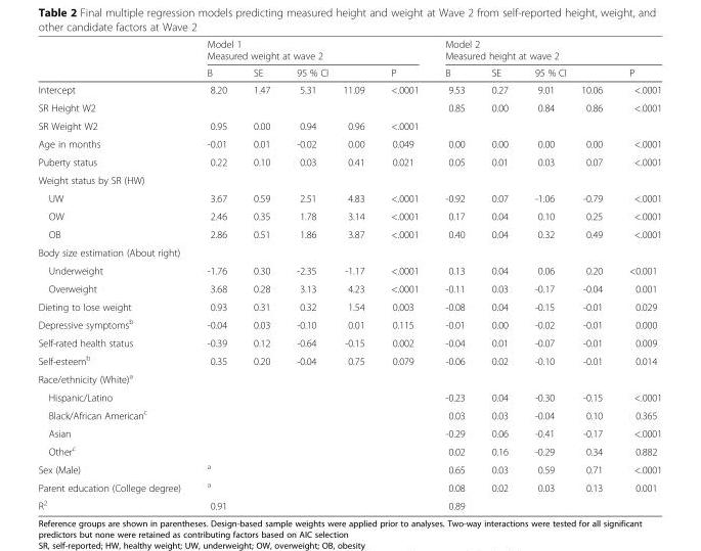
<table><thead><tr><td rowspan="4">Intercept</td><td rowspan="2" colspan="5">Model 1 Measured weight at wave 2</td><td rowspan="2" colspan="5">Model 2 Measured height at wave 2</td></tr><tr></tr><tr><td rowspan="2">B 8.20</td><td rowspan="2">SE 1.47</td><td colspan="2">95 % CI</td><td rowspan="2">P &lt;.0001</td><td rowspan="2">B 9.53</td><td rowspan="2">SE 0.27</td><td colspan="2">95 % CI</td><td rowspan="2">P &lt;.0001</td></tr><tr><td>5.31</td><td>11.09</td><td>9.01</td><td>10.06</td></tr></thead><tbody><tr><td>SR Height W2</td><td></td><td></td><td></td><td></td><td></td><td>0.85</td><td>0.00</td><td>0.84</td><td>0.86</td><td>&lt;.0001</td></tr><tr><td>SR Weight W2</td><td>0.95</td><td>0.00</td><td>0.94</td><td>0.96</td><td>&lt;.0001</td><td></td><td></td><td></td><td></td><td></td></tr><tr><td>Age in months</td><td>-0.01</td><td>0.01</td><td>-0.02</td><td>0.00</td><td>0.049</td><td>0.00</td><td>0.00</td><td>0.00</td><td>0.00</td><td>&lt;.0001</td></tr><tr><td>Puberty status</td><td>0.22</td><td>0.10</td><td>0.03</td><td>0.41</td><td>0.021</td><td>0.05</td><td>0.01</td><td>0.03</td><td>0.07</td><td>&lt;.0001</td></tr><tr><td colspan="11">Weight status by SR (HW)</td></tr><tr><td>UW</td><td>3.67</td><td>0.59</td><td>2.51</td><td>4.83</td><td>&lt;.0001</td><td>-0.92</td><td>0.07</td><td>-1.06</td><td>-0.79</td><td>&lt;.0001</td></tr><tr><td>OW</td><td>2.46</td><td>0.35</td><td>1.78</td><td>3.14</td><td>&lt;.0001</td><td>0.17</td><td>0.04</td><td>0.10</td><td>0.25</td><td>&lt;.0001</td></tr><tr><td>OB</td><td>2.86</td><td>0.51</td><td>1.86</td><td>3.87</td><td>&lt;.0001</td><td>0.40</td><td>0.04</td><td>0.32</td><td>0.49</td><td>&lt;.0001</td></tr><tr><td colspan="11">Body size estimation (About right)</td></tr><tr><td>Underweight</td><td>-1.76</td><td>0.30</td><td>-2.35</td><td>-1.17</td><td>&lt;.0001</td><td>0.13</td><td>0.04</td><td>0.06</td><td>0.20</td><td>&lt;0.001</td></tr><tr><td>Overweight</td><td>3.68</td><td>0.28</td><td>3.13</td><td>4.23</td><td>&lt;.0001</td><td>-0.11</td><td>0.03</td><td>-0.17</td><td>-0.04</td><td>0.001</td></tr><tr><td>Dieting to lose weight</td><td>0.93</td><td>0.31</td><td>0.32</td><td>1.54</td><td>0.003</td><td>-0.08</td><td>0.04</td><td>-0.15</td><td>-0.01</td><td>0.029</td></tr><tr><td>Depressive symptoms<sup>b</sup></td><td>-0.04</td><td>0.03</td><td>-0.10</td><td>0.01</td><td>0.115</td><td>-0.01</td><td>0.00</td><td>-0.02</td><td>-0.01</td><td>0.000</td></tr><tr><td>Self-rated health status</td><td>-0.39</td><td>0.12</td><td>-0.64</td><td>-0.15</td><td>0.002</td><td>-0.04</td><td>0.01</td><td>-0.07</td><td>-0.01</td><td>0.009</td></tr><tr><td>Self-esteem<sup>b</sup></td><td>0.35</td><td>0.20</td><td>-0.04</td><td>0.75</td><td>0.079</td><td>-0.06</td><td>0.02</td><td>-0.10</td><td>-0.01</td><td>0.014</td></tr><tr><td colspan="11">Race/ethnicity (White)<sup>a</sup></td></tr><tr><td>Hispanic/Latino</td><td></td><td></td><td></td><td></td><td></td><td>-0.23</td><td>0.04</td><td>-0.30</td><td>-0.15</td><td>&lt;.0001</td></tr><tr><td>Black/African American<sup>c</sup></td><td></td><td></td><td></td><td></td><td></td><td>0.03</td><td>0.03</td><td>-0.04</td><td>0.10</td><td>0.365</td></tr><tr><td>Asian</td><td></td><td></td><td></td><td></td><td></td><td>-0.29</td><td>0.06</td><td>-0.41</td><td>-0.17</td><td>&lt;.0001</td></tr><tr><td>Other<sup>c</sup></td><td></td><td></td><td></td><td></td><td></td><td>0.02</td><td>0.16</td><td>-0.29</td><td>0.34</td><td>0.882</td></tr><tr><td>Sex (Male)</td><td><sup>a</sup></td><td></td><td></td><td></td><td></td><td>0.65</td><td>0.03</td><td>0.59</td><td>0.71</td><td>&lt;.0001</td></tr><tr><td>Parent education (College degree)</td><td><sup>a</sup></td><td></td><td></td><td></td><td></td><td>0.08</td><td>0.02</td><td>0.03</td><td>0.13</td><td>0.001</td></tr><tr><td>R<sup>2</sup></td><td colspan="5">0.91</td><td colspan="5">0.89</td></tr></tbody></table>